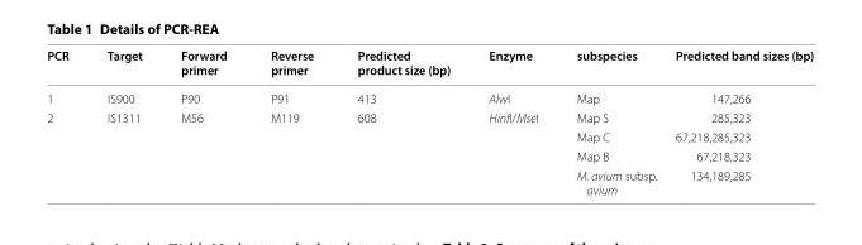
<table><thead><tr><td>PCR</td><td>Target</td><td>Forward primer</td><td>Reverse primer</td><td>Predicted product size (bp)</td><td>Enzyme</td><td>subspecies</td><td>Predicted band sizes (bp)</td></tr></thead><tbody><tr><td>1</td><td>IS900</td><td>P90</td><td>P91</td><td>413</td><td>AlwI</td><td>Map</td><td>147,266</td></tr><tr><td rowspan="4">2</td><td>IS1311</td><td>M56</td><td>M119</td><td>608</td><td>HinfI/MseI</td><td>Map S</td><td>285,323</td></tr><tr><td></td><td></td><td></td><td></td><td></td><td>Map C</td><td>67,218,285,323</td></tr><tr><td></td><td></td><td></td><td></td><td></td><td>Map B</td><td>67,218,323</td></tr><tr><td></td><td></td><td></td><td></td><td></td><td>M. avium subsp. avium</td><td>134,189,285</td></tr></tbody></table>